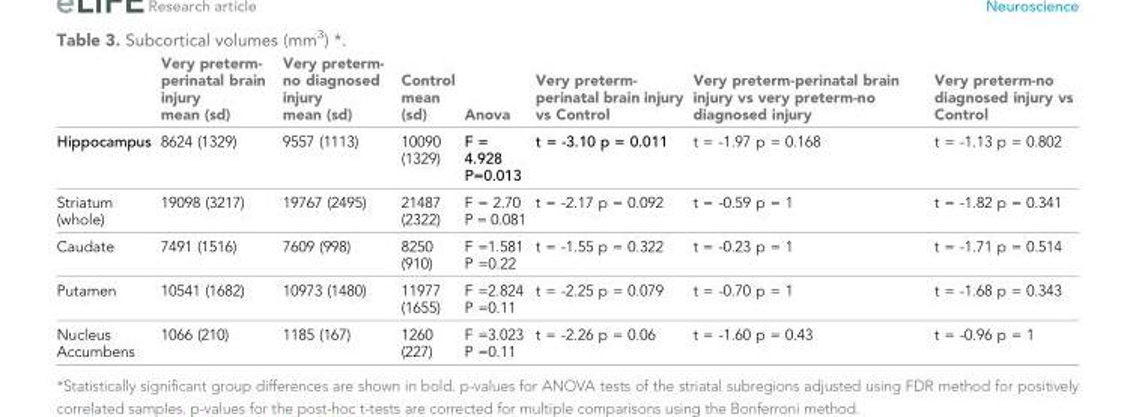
<table><thead><tr><td></td><td>Very preterm- perinatal brain injury mean (sd)</td><td>Very preterm- no diagnosed injury mean (sd)</td><td>Control mean (sd)</td><td>Anova</td><td>Very preterm- perinatal brain injury vs Control</td><td>Very preterm-perinatal brain injury vs very preterm-no diagnosed injury</td><td>Very preterm-no diagnosed injury vs Control</td></tr></thead><tbody><tr><td>Hippocampus</td><td>8624 (1329)</td><td>9557 (1113)</td><td>10090 (1329)</td><td>F = 4.928 P=0.013</td><td>t = -3.10 p = 0.011</td><td>t = -1.97 p = 0.168</td><td>t = -1.13 p = 0.802</td></tr><tr><td>Striatum (whole)</td><td>19098 (3217)</td><td>19767 (2495)</td><td>21487 (2322)</td><td>F = 2.70 P = 0.081</td><td>t = -2.17 p = 0.092</td><td>t = -0.59 p = 1</td><td>t = -1.82 p = 0.341</td></tr><tr><td>Caudate</td><td>7491 (1516)</td><td>7609 (998)</td><td>8250 (910)</td><td>F =1.581 P =0.22</td><td>t = -1.55 p = 0.322</td><td>t = -0.23 p = 1</td><td>t = -1.71 p = 0.514</td></tr><tr><td>Putamen</td><td>10541 (1682)</td><td>10973 (1480)</td><td>11977 (1655)</td><td>F =2.824 P =0.11</td><td>t = -2.25 p = 0.079</td><td>t = -0.70 p = 1</td><td>t = -1.68 p = 0.343</td></tr><tr><td>Nucleus Accumbens</td><td>1066 (210)</td><td>1185 (167)</td><td>1260 (227)</td><td>F =3.023 P =0.11</td><td>t = -2.26 p = 0.06</td><td>t = -1.60 p = 0.43</td><td>t = -0.96 p = 1</td></tr></tbody></table>